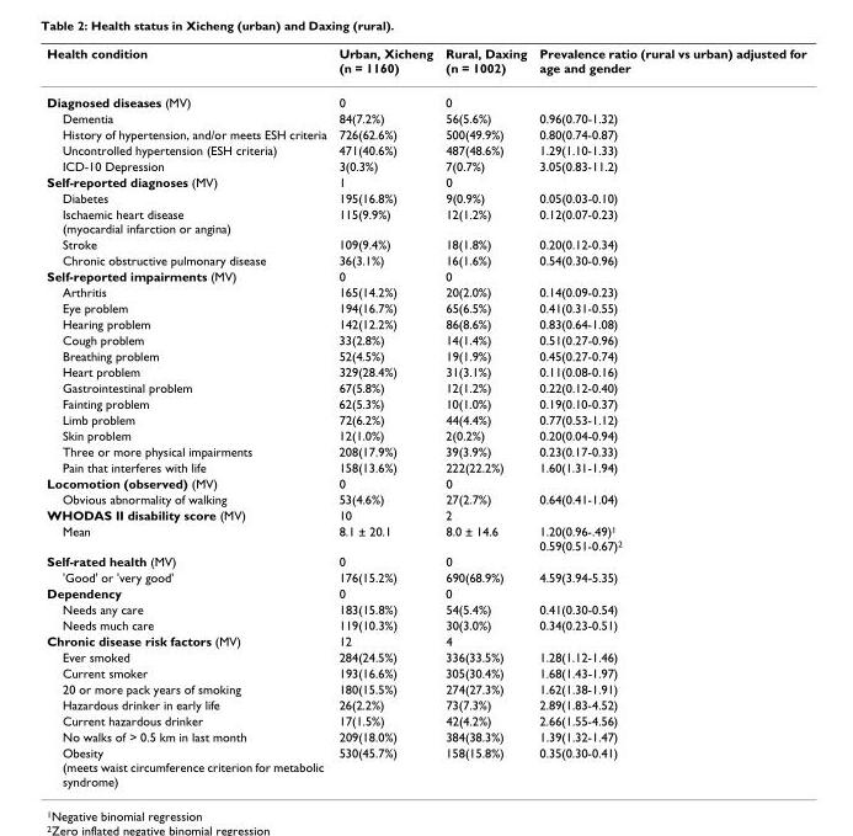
<table><thead><tr><td>Health condition</td><td>Urban, Xicheng (n = 1160)</td><td>Rural, Daxing (n = 1002)</td><td>Prevalence ratio (rural vs urban) adjusted for age and gender</td></tr></thead><tbody><tr><td>Diagnosed diseases (MV)</td><td>0</td><td>0</td><td></td></tr><tr><td>Dementia</td><td>84(7.2%)</td><td>56(5.6%)</td><td>0.96(0.70-1.32)</td></tr><tr><td>History of hypertension, and/or meets ESH criteria</td><td>726(62.6%)</td><td>500(49.9%)</td><td>0.80(0.74-0.87)</td></tr><tr><td>Uncontrolled hypertension (ESH criteria)</td><td>471(40.6%)</td><td>487(48.6%)</td><td>1.29(1.10-1.33)</td></tr><tr><td>ICD-10 Depression</td><td>3(0.3%)</td><td>7(0.7%)</td><td>3.05(0.83-11.2)</td></tr><tr><td>Self-reported diagnoses (MV)</td><td>1</td><td>0</td><td></td></tr><tr><td>Diabetes</td><td>195(16.8%)</td><td>9(0.9%)</td><td>0.05(0.03-0.10)</td></tr><tr><td>Ischaemic heart disease (myocardial infarction or angina)</td><td>115(9.9%)</td><td>12(1.2%)</td><td>0.12(0.07-0.23)</td></tr><tr><td>Stroke</td><td>109(9.4%)</td><td>18(1.8%)</td><td>0.20(0.12-0.34)</td></tr><tr><td>Chronic obstructive pulmonary disease</td><td>36(3.1%)</td><td>16(1.6%)</td><td>0.54(0.30-0.96)</td></tr><tr><td>Self-reported impairments (MV)</td><td>0</td><td>0</td><td></td></tr><tr><td>Arthritis</td><td>165(14.2%)</td><td>20(2.0%)</td><td>0.14(0.09-0.23)</td></tr><tr><td>Eye problem</td><td>194(16.7%)</td><td>65(6.5%)</td><td>0.41(0.31-0.55)</td></tr><tr><td>Hearing problem</td><td>142(12.2%)</td><td>86(8.6%)</td><td>0.83(0.64-1.08)</td></tr><tr><td>Cough problem</td><td>33(2.8%)</td><td>14(1.4%)</td><td>0.51(0.27-0.96)</td></tr><tr><td>Breathing problem</td><td>52(4.5%)</td><td>19(1.9%)</td><td>0.45(0.27-0.74)</td></tr><tr><td>Heart problem</td><td>329(28.4%)</td><td>31(3.1%)</td><td>0.11(0.08-0.16)</td></tr><tr><td>Gastrointestinal problem</td><td>67(5.8%)</td><td>12(1.2%)</td><td>0.22(0.12-0.40)</td></tr><tr><td>Fainting problem</td><td>62(5.3%)</td><td>10(1.0%)</td><td>0.19(0.10-0.37)</td></tr><tr><td>Limb problem</td><td>72(6.2%)</td><td>44(4.4%)</td><td>0.77(0.53-1.12)</td></tr><tr><td>Skin problem</td><td>12(1.0%)</td><td>2(0.2%)</td><td>0.20(0.04-0.94)</td></tr><tr><td>Three or more physical impairments</td><td>208(17.9%)</td><td>39(3.9%)</td><td>0.23(0.17-0.33)</td></tr><tr><td>Pain that interferes with life</td><td>158(13.6%)</td><td>222(22.2%)</td><td>1.60(1.31-1.94)</td></tr><tr><td>Locomotion (observed) (MV)</td><td>0</td><td>0</td><td></td></tr><tr><td>Obvious abnormality of walking</td><td>53(4.6%)</td><td>27(2.7%)</td><td>0.64(0.41-1.04)</td></tr><tr><td>WHODAS II disability score (MV)</td><td>10</td><td>2</td><td></td></tr><tr><td>Mean</td><td>8.1 ± 20.1</td><td>8.0 ± 14.6</td><td>1.20(0.96-.49)<sup>1</sup> 0.59(0.51-0.67)<sup>2</sup></td></tr><tr><td>Self-rated health (MV)</td><td>0</td><td>0</td><td></td></tr><tr><td>&#x27;Good&#x27; or &#x27;very good&#x27;</td><td>176(15.2%)</td><td>690(68.9%)</td><td>4.59(3.94-5.35)</td></tr><tr><td>Dependency</td><td>0</td><td>0</td><td></td></tr><tr><td>Needs any care</td><td>183(15.8%)</td><td>54(5.4%)</td><td>0.41(0.30-0.54)</td></tr><tr><td>Needs much care</td><td>119(10.3%)</td><td>30(3.0%)</td><td>0.34(0.23-0.51)</td></tr><tr><td>Chronic disease risk factors (MV)</td><td>12</td><td>4</td><td></td></tr><tr><td>Ever smoked</td><td>284(24.5%)</td><td>336(33.5%)</td><td>1.28(1.12-1.46)</td></tr><tr><td>Current smoker</td><td>193(16.6%)</td><td>305(30.4%)</td><td>1.68(1.43-1.97)</td></tr><tr><td>20 or more pack years of smoking</td><td>180(15.5%)</td><td>274(27.3%)</td><td>1.62(1.38-1.91)</td></tr><tr><td>Hazardous drinker in early life</td><td>26(2.2%)</td><td>73(7.3%)</td><td>2.89(1.83-4.52)</td></tr><tr><td>Current hazardous drinker</td><td>17(1.5%)</td><td>42(4.2%)</td><td>2.66(1.55-4.56)</td></tr><tr><td>No walks of &gt; 0.5 km in last month</td><td>209(18.0%)</td><td>384(38.3%)</td><td>1.39(1.32-1.47)</td></tr><tr><td>Obesity (meets waist circumference criterion for metabolic syndrome)</td><td>530(45.7%)</td><td>158(15.8%)</td><td>0.35(0.30-0.41)</td></tr></tbody></table>